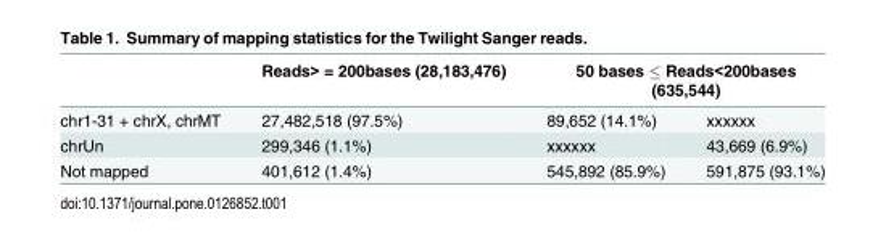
<table><thead><tr><td rowspan="2">chr1-31 + chrX, chrMT</td><td rowspan="2">Reads&gt; = 200bases (28,183,476) 27,482,518 (97.5%)</td><td colspan="2">50 bases ≤ Reads&lt;200bases (635,544)</td></tr><tr><td>89,652 (14.1%)</td><td>xxxxxx</td></tr></thead><tbody><tr><td>chrUn</td><td>299,346 (1.1%)</td><td>xxxxxx</td><td>43,669 (6.9%)</td></tr><tr><td>Not mapped</td><td>401,612 (1.4%)</td><td>545,892 (85.9%)</td><td>591,875 (93.1%)</td></tr></tbody></table>